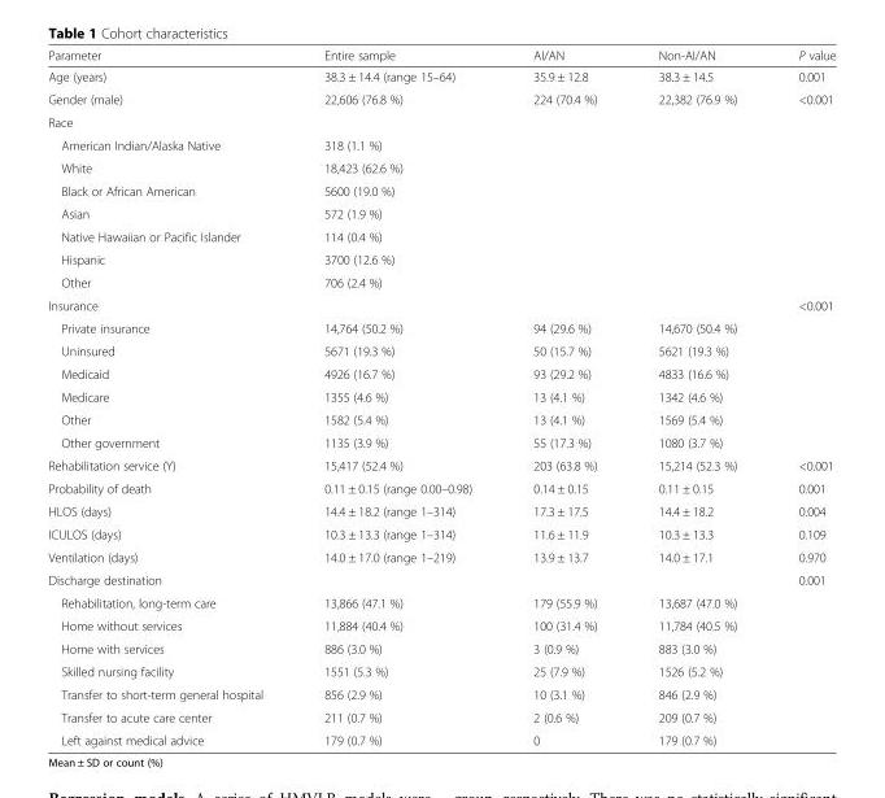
<table><thead><tr><td>Parameter</td><td>Entire sample</td><td>AI/AN</td><td>Non-AI/AN</td><td>P value</td></tr></thead><tbody><tr><td>Age (years)</td><td>38.3 ± 14.4 (range 15–64)</td><td>35.9 ± 12.8</td><td>38.3 ± 14.5</td><td>0.001</td></tr><tr><td>Gender (male)</td><td>22,606 (76.8 %)</td><td>224 (70.4 %)</td><td>22,382 (76.9 %)</td><td>&lt;0.001</td></tr><tr><td colspan="5">Race</td></tr><tr><td>American Indian/Alaska Native</td><td>318 (1.1 %)</td><td></td><td></td><td></td></tr><tr><td>White</td><td>18,423 (62.6 %)</td><td></td><td></td><td></td></tr><tr><td>Black or African American</td><td>5600 (19.0 %)</td><td></td><td></td><td></td></tr><tr><td>Asian</td><td>572 (1.9 %)</td><td></td><td></td><td></td></tr><tr><td>Native Hawaiian or Pacific Islander</td><td>114 (0.4 %)</td><td></td><td></td><td></td></tr><tr><td>Hispanic</td><td>3700 (12.6 %)</td><td></td><td></td><td></td></tr><tr><td>Other</td><td>706 (2.4 %)</td><td></td><td></td><td></td></tr><tr><td>Insurance</td><td></td><td></td><td></td><td>&lt;0.001</td></tr><tr><td>Private insurance</td><td>14,764 (50.2 %)</td><td>94 (29.6 %)</td><td>14,670 (50.4 %)</td><td></td></tr><tr><td>Uninsured</td><td>5671 (19.3 %)</td><td>50 (15.7 %)</td><td>5621 (19.3 %)</td><td></td></tr><tr><td>Medicaid</td><td>4926 (16.7 %)</td><td>93 (29.2 %)</td><td>4833 (16.6 %)</td><td></td></tr><tr><td>Medicare</td><td>1355 (4.6 %)</td><td>13 (4.1 %)</td><td>1342 (4.6 %)</td><td></td></tr><tr><td>Other</td><td>1582 (5.4 %)</td><td>13 (4.1 %)</td><td>1569 (5.4 %)</td><td></td></tr><tr><td>Other government</td><td>1135 (3.9 %)</td><td>55 (17.3 %)</td><td>1080 (3.7 %)</td><td></td></tr><tr><td>Rehabilitation service (Y)</td><td>15,417 (52.4 %)</td><td>203 (63.8 %)</td><td>15,214 (52.3 %)</td><td>&lt;0.001</td></tr><tr><td>Probability of death</td><td>0.11 ± 0.15 (range 0.00–0.98)</td><td>0.14 ± 0.15</td><td>0.11 ± 0.15</td><td>0.001</td></tr><tr><td>HLOS (days)</td><td>14.4 ± 18.2 (range 1–314)</td><td>17.3 ± 17.5</td><td>14.4 ± 18.2</td><td>0.004</td></tr><tr><td>ICULOS (days)</td><td>10.3 ± 13.3 (range 1–314)</td><td>11.6 ± 11.9</td><td>10.3 ± 13.3</td><td>0.109</td></tr><tr><td>Ventilation (days)</td><td>14.0 ± 17.0 (range 1–219)</td><td>13.9 ± 13.7</td><td>14.0 ± 17.1</td><td>0.970</td></tr><tr><td>Discharge destination</td><td></td><td></td><td></td><td>0.001</td></tr><tr><td>Rehabilitation, long-term care</td><td>13,866 (47.1 %)</td><td>179 (55.9 %)</td><td>13,687 (47.0 %)</td><td></td></tr><tr><td>Home without services</td><td>11,884 (40.4 %)</td><td>100 (31.4 %)</td><td>11,784 (40.5 %)</td><td></td></tr><tr><td>Home with services</td><td>886 (3.0 %)</td><td>3 (0.9 %)</td><td>883 (3.0 %)</td><td></td></tr><tr><td>Skilled nursing facility</td><td>1551 (5.3 %)</td><td>25 (7.9 %)</td><td>1526 (5.2 %)</td><td></td></tr><tr><td>Transfer to short-term general hospital</td><td>856 (2.9 %)</td><td>10 (3.1 %)</td><td>846 (2.9 %)</td><td></td></tr><tr><td>Transfer to acute care center</td><td>211 (0.7 %)</td><td>2 (0.6 %)</td><td>209 (0.7 %)</td><td></td></tr><tr><td>Left against medical advice</td><td>179 (0.7 %)</td><td>0</td><td>179 (0.7 %)</td><td></td></tr></tbody></table>